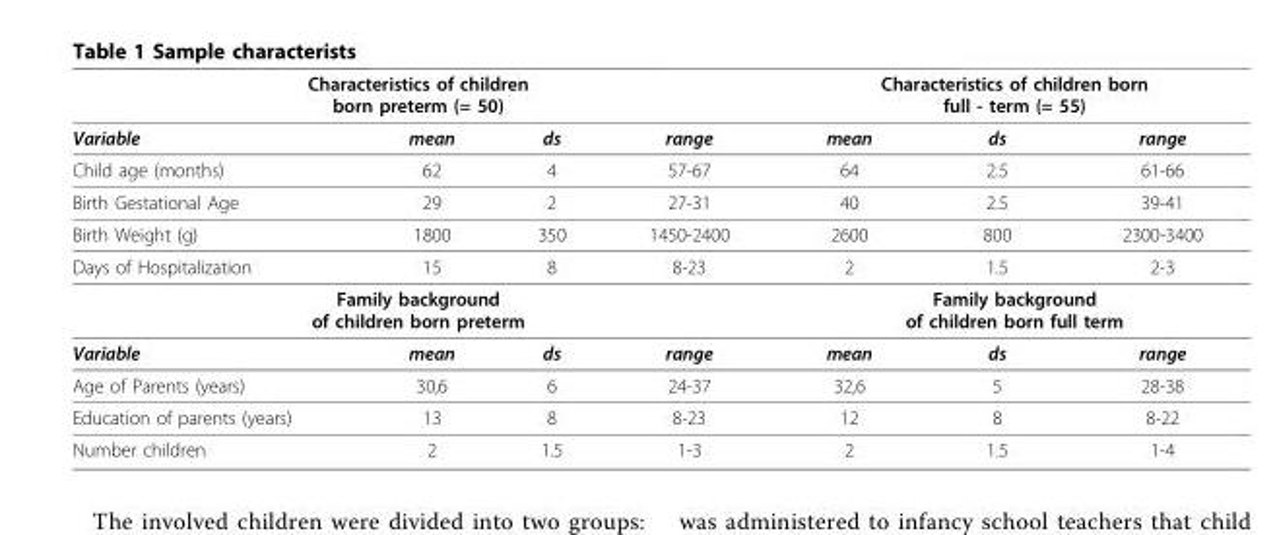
<table><thead><tr><td colspan="4">Characteristics of children born preterm (= 50)</td><td colspan="3">Characteristics of children born full - term (= 55)</td></tr><tr><td>Variable</td><td>mean</td><td>ds</td><td>range</td><td>mean</td><td>ds</td><td>range</td></tr></thead><tbody><tr><td>Child age (months)</td><td>62</td><td>4</td><td>57-67</td><td>64</td><td>2.5</td><td>61-66</td></tr><tr><td>Birth Gestational Age</td><td>29</td><td>2</td><td>27-31</td><td>40</td><td>2.5</td><td>39-41</td></tr><tr><td>Birth Weight (g)</td><td>1800</td><td>350</td><td>1450-2400</td><td>2600</td><td>800</td><td>2300-3400</td></tr><tr><td>Days of Hospitalization</td><td>15</td><td>8</td><td>8-23</td><td>2</td><td>1.5</td><td>2-3</td></tr><tr><td colspan="4">Family background of children born preterm</td><td colspan="3">Family background of children born full term</td></tr><tr><td>Variable</td><td>mean</td><td>ds</td><td>range</td><td>mean</td><td>ds</td><td>range</td></tr><tr><td>Age of Parents (years)</td><td>30,6</td><td>6</td><td>24-37</td><td>32,6</td><td>5</td><td>28-38</td></tr><tr><td>Education of parents (years)</td><td>13</td><td>8</td><td>8-23</td><td>12</td><td>8</td><td>8-22</td></tr><tr><td>Number children</td><td>2</td><td>1.5</td><td>1-3</td><td>2</td><td>1.5</td><td>1-4</td></tr></tbody></table>